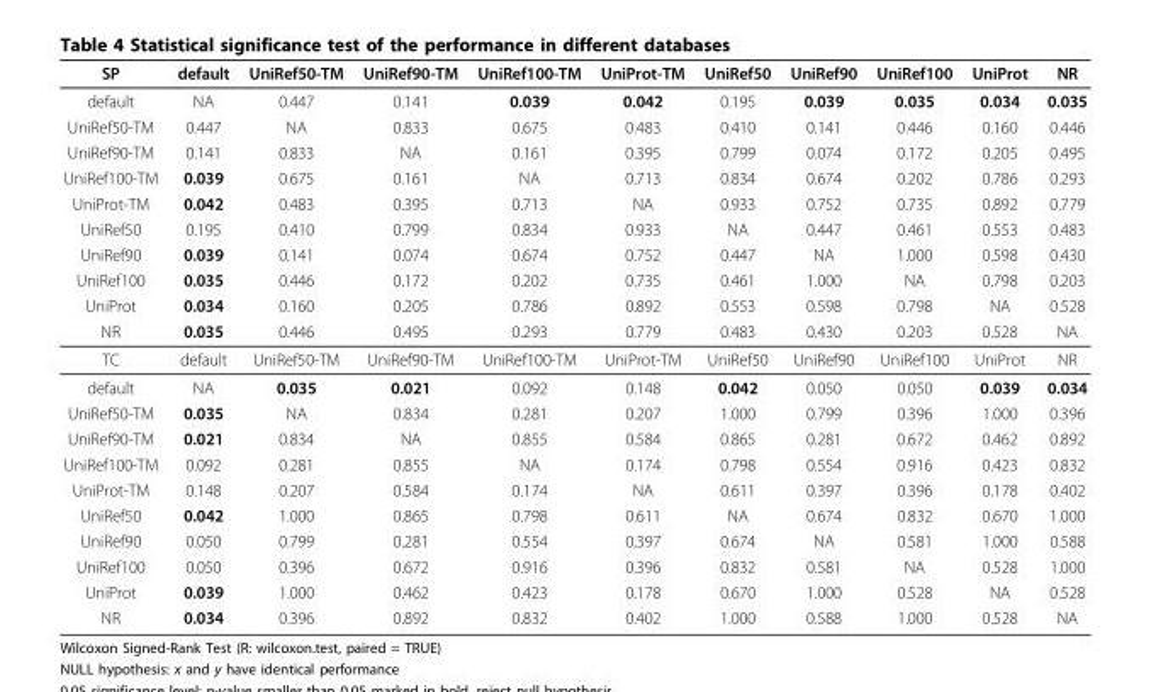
<table><thead><tr><td>SP</td><td>default</td><td>UniRef50-TM</td><td>UniRef90-TM</td><td>UniRef100-TM</td><td>UniProt-TM</td><td>UniRef50</td><td>UniRef90</td><td>UniRef100</td><td>UniProt</td><td>NR</td></tr></thead><tbody><tr><td>default</td><td>NA</td><td>0.447</td><td>0.141</td><td>0.039</td><td>0.042</td><td>0.195</td><td>0.039</td><td>0.035</td><td>0.034</td><td>0.035</td></tr><tr><td>UniRef50-TM</td><td>0.447</td><td>NA</td><td>0.833</td><td>0.675</td><td>0.483</td><td>0.410</td><td>0.141</td><td>0.446</td><td>0.160</td><td>0.446</td></tr><tr><td>UniRef90-TM</td><td>0.141</td><td>0.833</td><td>NA</td><td>0.161</td><td>0.395</td><td>0.799</td><td>0.074</td><td>0.172</td><td>0.205</td><td>0.495</td></tr><tr><td>UniRef100-TM</td><td>0.039</td><td>0.675</td><td>0.161</td><td>NA</td><td>0.713</td><td>0.834</td><td>0.674</td><td>0.202</td><td>0.786</td><td>0.293</td></tr><tr><td>UniProt-TM</td><td>0.042</td><td>0.483</td><td>0.395</td><td>0.713</td><td>NA</td><td>0.933</td><td>0.752</td><td>0.735</td><td>0.892</td><td>0.779</td></tr><tr><td>UniRef50</td><td>0.195</td><td>0.410</td><td>0.799</td><td>0.834</td><td>0.933</td><td>NA</td><td>0.447</td><td>0.461</td><td>0.553</td><td>0.483</td></tr><tr><td>UniRef90</td><td>0.039</td><td>0.141</td><td>0.074</td><td>0.674</td><td>0.752</td><td>0.447</td><td>NA</td><td>1.000</td><td>0.598</td><td>0.430</td></tr><tr><td>UniRef100</td><td>0.035</td><td>0.446</td><td>0.172</td><td>0.202</td><td>0.735</td><td>0.461</td><td>1.000</td><td>NA</td><td>0.798</td><td>0.203</td></tr><tr><td>UniProt</td><td>0.034</td><td>0.160</td><td>0.205</td><td>0.786</td><td>0.892</td><td>0.553</td><td>0.598</td><td>0.798</td><td>NA</td><td>0.528</td></tr><tr><td>NR</td><td>0.035</td><td>0.446</td><td>0.495</td><td>0.293</td><td>0.779</td><td>0.483</td><td>0.430</td><td>0.203</td><td>0.528</td><td>NA</td></tr><tr><td>TC</td><td>default</td><td>UniRef50-TM</td><td>UniRef90-TM</td><td>UniRef100-TM</td><td>UniProt-TM</td><td>UniRef50</td><td>UniRef90</td><td>UniRef100</td><td>UniProt</td><td>NR</td></tr><tr><td>default</td><td>NA</td><td>0.035</td><td>0.021</td><td>0.092</td><td>0.148</td><td>0.042</td><td>0.050</td><td>0.050</td><td>0.039</td><td>0.034</td></tr><tr><td>UniRef50-TM</td><td>0.035</td><td>NA</td><td>0.834</td><td>0.281</td><td>0.207</td><td>1.000</td><td>0.799</td><td>0.396</td><td>1.000</td><td>0.396</td></tr><tr><td>UniRef90-TM</td><td>0.021</td><td>0.834</td><td>NA</td><td>0.855</td><td>0.584</td><td>0.865</td><td>0.281</td><td>0.672</td><td>0.462</td><td>0.892</td></tr><tr><td>UniRef100-TM</td><td>0.092</td><td>0.281</td><td>0.855</td><td>NA</td><td>0.174</td><td>0.798</td><td>0.554</td><td>0.916</td><td>0.423</td><td>0.832</td></tr><tr><td>UniProt-TM</td><td>0.148</td><td>0.207</td><td>0.584</td><td>0.174</td><td>NA</td><td>0.611</td><td>0.397</td><td>0.396</td><td>0.178</td><td>0.402</td></tr><tr><td>UniRef50</td><td>0.042</td><td>1.000</td><td>0.865</td><td>0.798</td><td>0.611</td><td>NA</td><td>0.674</td><td>0.832</td><td>0.670</td><td>1.000</td></tr><tr><td>UniRef90</td><td>0.050</td><td>0.799</td><td>0.281</td><td>0.554</td><td>0.397</td><td>0.674</td><td>NA</td><td>0.581</td><td>1.000</td><td>0.588</td></tr><tr><td>UniRef100</td><td>0.050</td><td>0.396</td><td>0.672</td><td>0.916</td><td>0.396</td><td>0.832</td><td>0.581</td><td>NA</td><td>0.528</td><td>1.000</td></tr><tr><td>UniProt</td><td>0.039</td><td>1.000</td><td>0.462</td><td>0.423</td><td>0.178</td><td>0.670</td><td>1.000</td><td>0.528</td><td>NA</td><td>0.528</td></tr><tr><td>NR</td><td>0.034</td><td>0.396</td><td>0.892</td><td>0.832</td><td>0.402</td><td>1.000</td><td>0.588</td><td>1.000</td><td>0.528</td><td>NA</td></tr></tbody></table>